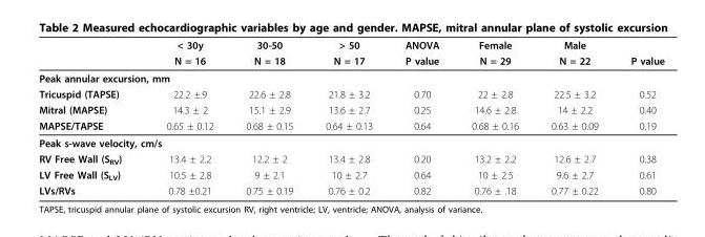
<table><thead><tr><td rowspan="2"></td><td rowspan="2">&lt; 30y N = 16</td><td rowspan="2">30-50 N = 18</td><td rowspan="2">&gt; 50 N = 17</td><td rowspan="2">ANOVA P value</td><td rowspan="2">Female N = 29</td><td rowspan="2">Male N = 22</td><td rowspan="2">P value</td></tr><tr></tr></thead><tbody><tr><td colspan="8">Peak annular excursion, mm</td></tr><tr><td>Tricuspid (TAPSE)</td><td>22.2 ±.9</td><td>22.6 ± 2.8</td><td>21.8 ± 3.2</td><td>0.70</td><td>22 ± 2.8</td><td>22.5 ± 3.2</td><td>0.52</td></tr><tr><td>Mitral (MAPSE)</td><td>14.3 ± 2</td><td>15.1 ± 2.9</td><td>13.6 ± 2.7</td><td>0.25</td><td>14.6 ± 2.8</td><td>14 ± 2.2</td><td>0.40</td></tr><tr><td>MAPSE/TAPSE</td><td>0.65 ± 0.12</td><td>0.68 ± 0.15</td><td>0.64 ± 0.13</td><td>0.64</td><td>0.68 ± 0.16</td><td>0.63 ± 0.09</td><td>0.19</td></tr><tr><td colspan="8">Peak s-wave velocity, cm/s</td></tr><tr><td>RV Free Wall (S<sub>RV</sub>)</td><td>13.4 ± 2.2</td><td>12.2 ± 2</td><td>13.4 ± 2.8</td><td>0.20</td><td>13.2 ± 2.2</td><td>12.6 ± 2.7</td><td>0.38</td></tr><tr><td>LV Free Wall (S<sub>LV</sub>)</td><td>10.5 ± 2.8</td><td>9 ± 2.1</td><td>10 ± 2.7</td><td>0.64</td><td>10 ± 2.5</td><td>9.6 ± 2.7</td><td>0.61</td></tr><tr><td>LVs/RVs</td><td>0.78 ±0.21</td><td>0.75 ± 0.19</td><td>0.76 ± 0.2</td><td>0.82</td><td>0.76 ± .18</td><td>0.77 ± 0.22</td><td>0.80</td></tr></tbody></table>